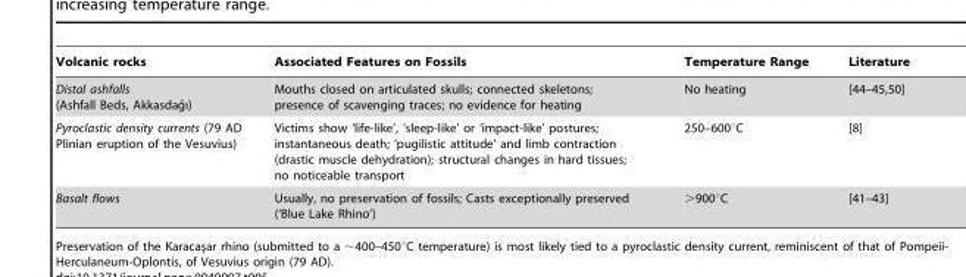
<table><thead><tr><td>Volcanic rocks</td><td>Associated Features on Fossils</td><td>Temperature Range</td><td>Literature</td></tr></thead><tbody><tr><td>Distal ashfalls (Ashfall Beds, Akkasdagˇı)</td><td>Mouths closed on articulated skulls; connected skeletons; presence of scavenging traces; no evidence for heating</td><td>No heating</td><td>[44–45,50]</td></tr><tr><td>Pyroclastic density currents (79 AD Plinian eruption of the Vesuvius)</td><td>Victims show ‘life-like’, ‘sleep-like’ or ‘impact-like’ postures; instantaneous death; ‘pugilistic attitude’ and limb contraction (drastic muscle dehydration); structural changes in hard tissues; no noticeable transport</td><td>250–600°C</td><td>[8]</td></tr><tr><td>Basalt flows</td><td>Usually, no preservation of fossils; Casts exceptionally preserved (‘Blue Lake Rhino’)</td><td>&gt;900°C</td><td>[41–43]</td></tr></tbody></table>